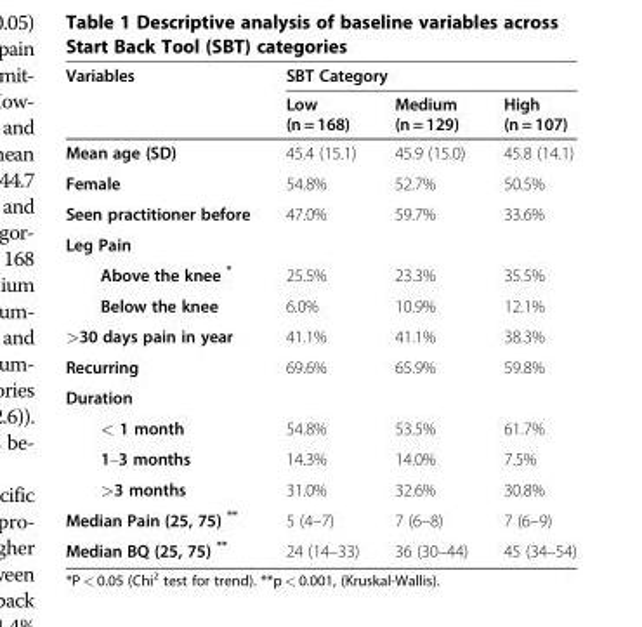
<table><thead><tr><td rowspan="2">Variables</td><td colspan="3">SBT Category</td></tr><tr><td>Low (n = 168)</td><td>Medium (n = 129)</td><td>High (n = 107)</td></tr></thead><tbody><tr><td>Mean age (SD)</td><td>45.4 (15.1)</td><td>45.9 (15.0)</td><td>45.8 (14.1)</td></tr><tr><td>Female</td><td>54.8%</td><td>52.7%</td><td>50.5%</td></tr><tr><td>Seen practitioner before</td><td>47.0%</td><td>59.7%</td><td>33.6%</td></tr><tr><td colspan="4">Leg Pain</td></tr><tr><td>Above the knee *</td><td>25.5%</td><td>23.3%</td><td>35.5%</td></tr><tr><td>Below the knee</td><td>6.0%</td><td>10.9%</td><td>12.1%</td></tr><tr><td>&gt;30 days pain in year</td><td>41.1%</td><td>41.1%</td><td>38.3%</td></tr><tr><td>Recurring</td><td>69.6%</td><td>65.9%</td><td>59.8%</td></tr><tr><td colspan="4">Duration</td></tr><tr><td>&lt; 1 month</td><td>54.8%</td><td>53.5%</td><td>61.7%</td></tr><tr><td>1–3 months</td><td>14.3%</td><td>14.0%</td><td>7.5%</td></tr><tr><td>&gt;3 months</td><td>31.0%</td><td>32.6%</td><td>30.8%</td></tr><tr><td>Median Pain (25, 75) **</td><td>5 (4–7)</td><td>7 (6–8)</td><td>7 (6–9)</td></tr><tr><td>Median BQ (25, 75) **</td><td>24 (14–33)</td><td>36 (30–44)</td><td>45 (34–54)</td></tr></tbody></table>